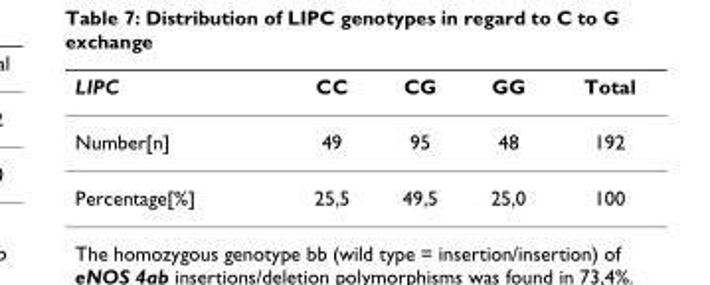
<table><thead><tr><td>LIPC</td><td>CC</td><td>CG</td><td>GG</td><td>Total</td></tr></thead><tbody><tr><td>Number[n]</td><td>49</td><td>95</td><td>48</td><td>192</td></tr><tr><td>Percentage[%]</td><td>25,5</td><td>49,5</td><td>25,0</td><td>100</td></tr></tbody></table>